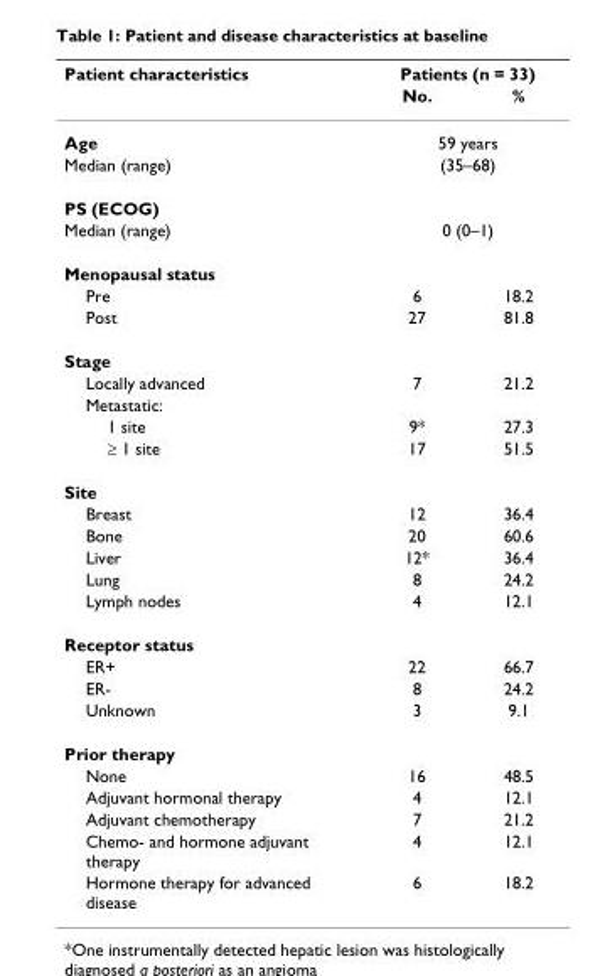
<table><thead><tr><td rowspan="2">Patient characteristics</td><td colspan="2">Patients (n = 33)</td></tr><tr><td>No.</td><td>%</td></tr></thead><tbody><tr><td>Age</td><td colspan="2">59 years</td></tr><tr><td>Median (range)</td><td colspan="2">(35–68)</td></tr><tr><td colspan="3">PS (ECOG)</td></tr><tr><td>Median (range)</td><td colspan="2">0 (0–1)</td></tr><tr><td colspan="3">Menopausal status</td></tr><tr><td>Pre</td><td>6</td><td>18.2</td></tr><tr><td>Post</td><td>27</td><td>81.8</td></tr><tr><td colspan="3">Stage</td></tr><tr><td>Locally advanced</td><td>7</td><td>21.2</td></tr><tr><td colspan="3">Metastatic:</td></tr><tr><td>1 site</td><td>9*</td><td>27.3</td></tr><tr><td>≥ 1 site</td><td>17</td><td>51.5</td></tr><tr><td colspan="3">Site</td></tr><tr><td>Breast</td><td>12</td><td>36.4</td></tr><tr><td>Bone</td><td>20</td><td>60.6</td></tr><tr><td>Liver</td><td>12*</td><td>36.4</td></tr><tr><td>Lung</td><td>8</td><td>24.2</td></tr><tr><td>Lymph nodes</td><td>4</td><td>12.1</td></tr><tr><td colspan="3">Receptor status</td></tr><tr><td>ER+</td><td>22</td><td>66.7</td></tr><tr><td>ER-</td><td>8</td><td>24.2</td></tr><tr><td>Unknown</td><td>3</td><td>9.1</td></tr><tr><td colspan="3">Prior therapy</td></tr><tr><td>None</td><td>16</td><td>48.5</td></tr><tr><td>Adjuvant hormonal therapy</td><td>4</td><td>12.1</td></tr><tr><td>Adjuvant chemotherapy</td><td>7</td><td>21.2</td></tr><tr><td>Chemo- and hormone adjuvant therapy</td><td>4</td><td>12.1</td></tr><tr><td>Hormone therapy for advanced disease</td><td>6</td><td>18.2</td></tr></tbody></table>